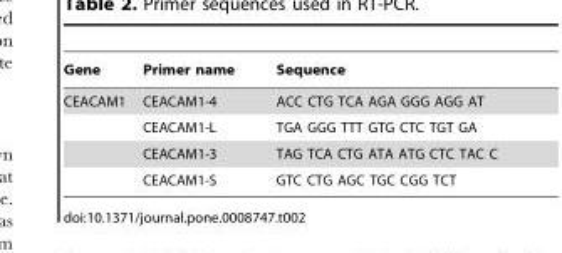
<table><thead><tr><td>Gene</td><td>Primer name</td><td>Sequence</td></tr></thead><tbody><tr><td rowspan="4">CEACAM1</td><td>CEACAM1-4</td><td>ACC CTG TCA AGA GGG AGG AT</td></tr><tr><td>CEACAM1-L</td><td>TGA GGG TTT GTG CTC TGT GA</td></tr><tr><td>CEACAM1-3</td><td>TAG TCA CTG ATA ATG CTC TAC C</td></tr><tr><td>CEACAM1-S</td><td>GTC CTG AGC TGC CGG TCT</td></tr></tbody></table>